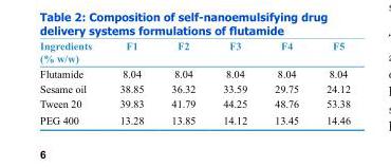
<table><thead><tr><td>Ingredients (% w/w)</td><td>F1</td><td>F2</td><td>F3</td><td>F4</td><td>F5</td></tr></thead><tbody><tr><td>Flutamide</td><td>8.04</td><td>8.04</td><td>8.04</td><td>8.04</td><td>8.04</td></tr><tr><td>Sesame oil</td><td>38.85</td><td>36.32</td><td>33.59</td><td>29.75</td><td>24.12</td></tr><tr><td>Tween 20</td><td>39.83</td><td>41.79</td><td>44.25</td><td>48.76</td><td>53.38</td></tr><tr><td>PEG 400</td><td>13.28</td><td>13.85</td><td>14.12</td><td>13.45</td><td>14.46</td></tr></tbody></table>